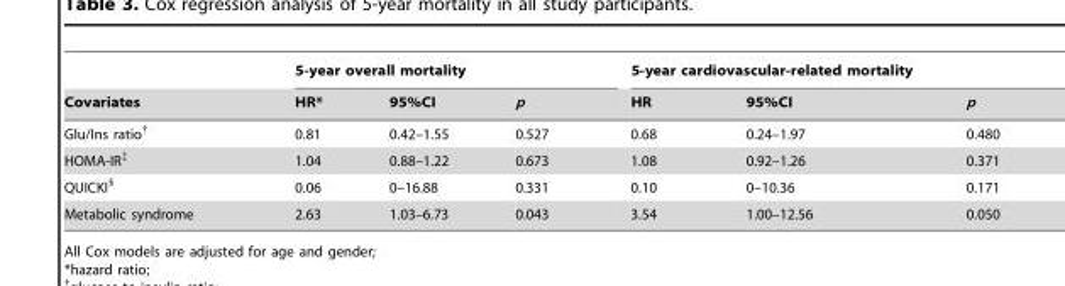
<table><thead><tr><td rowspan="2">Covariates</td><td colspan="3">5-year overall mortality</td><td colspan="3">5-year cardiovascular-related mortality</td></tr><tr><td>HR*</td><td>95%CI</td><td>p</td><td>HR</td><td>95%CI</td><td>p</td></tr></thead><tbody><tr><td>Glu/Ins ratio†</td><td>0.81</td><td>0.42–1.55</td><td>0.527</td><td>0.68</td><td>0.24–1.97</td><td>0.480</td></tr><tr><td>HOMA-IR‡</td><td>1.04</td><td>0.88–1.22</td><td>0.673</td><td>1.08</td><td>0.92–1.26</td><td>0.371</td></tr><tr><td>QUICKI§</td><td>0.06</td><td>0–16.88</td><td>0.331</td><td>0.10</td><td>0–10.36</td><td>0.171</td></tr><tr><td>Metabolic syndrome</td><td>2.63</td><td>1.03–6.73</td><td>0.043</td><td>3.54</td><td>1.00–12.56</td><td>0.050</td></tr></tbody></table>